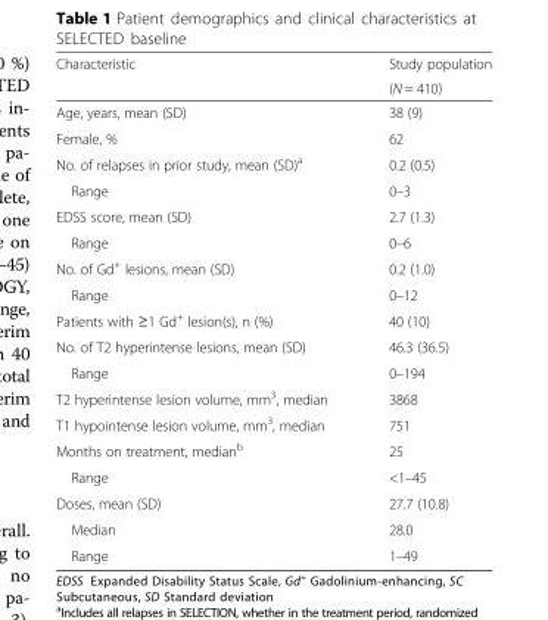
<table><thead><tr><td rowspan="2">Characteristic</td><td rowspan="2">Study population (N = 410)</td></tr><tr></tr></thead><tbody><tr><td>Age, years, mean (SD)</td><td>38 (9)</td></tr><tr><td>Female, %</td><td>62</td></tr><tr><td>No. of relapses in prior study, mean (SD)<sup>a</sup></td><td>0.2 (0.5)</td></tr><tr><td>Range</td><td>0–3</td></tr><tr><td>EDSS score, mean (SD)</td><td>2.7 (1.3)</td></tr><tr><td>Range</td><td>0–6</td></tr><tr><td>No. of Gd<sup>+</sup> lesions, mean (SD)</td><td>0.2 (1.0)</td></tr><tr><td>Range</td><td>0–12</td></tr><tr><td>Patients with ≥1 Gd<sup>+</sup> lesion(s), n (%)</td><td>40 (10)</td></tr><tr><td>No. of T2 hyperintense lesions, mean (SD)</td><td>46.3 (36.5)</td></tr><tr><td>Range</td><td>0–194</td></tr><tr><td>T2 hyperintense lesion volume, mm<sup>3</sup>, median</td><td>3868</td></tr><tr><td>T1 hypointense lesion volume, mm<sup>3</sup>, median</td><td>751</td></tr><tr><td>Months on treatment, median<sup>b</sup></td><td>25</td></tr><tr><td>Range</td><td>&lt;1–45</td></tr><tr><td>Doses, mean (SD)</td><td>27.7 (10.8)</td></tr><tr><td>Median</td><td>28.0</td></tr><tr><td>Range</td><td>1–49</td></tr></tbody></table>